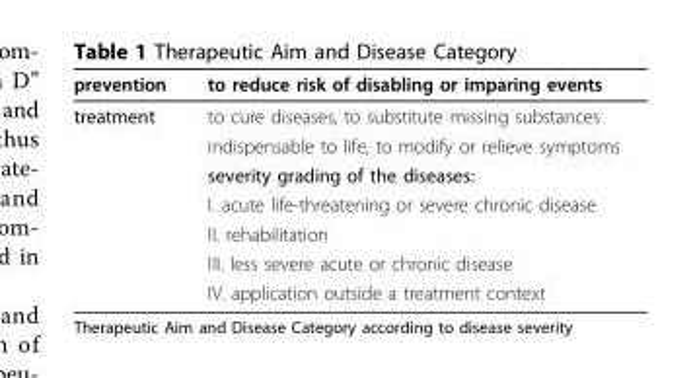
<table><thead><tr><td>prevention</td><td>to reduce risk of disabling or imparing events</td></tr></thead><tbody><tr><td rowspan="7">treatment</td><td>to cure diseases, to substitute missing substances</td></tr><tr><td>indispensable to life, to modify or relieve symptoms</td></tr><tr><td>severity grading of the diseases:</td></tr><tr><td>I. acute life-threatening or severe chronic disease</td></tr><tr><td>II. rehabilitation</td></tr><tr><td>III. less severe acute or chronic disease</td></tr><tr><td>IV. application outside a treatment context</td></tr></tbody></table>